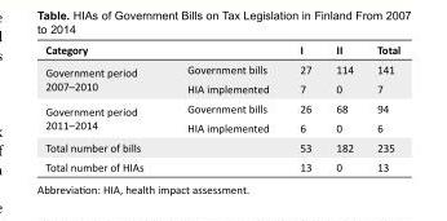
<table><tbody><tr><td>Category</td><td></td><td>I</td><td>II</td><td>Total</td></tr><tr><td rowspan="2">Government period 2007–2010</td><td>Government bills</td><td>27</td><td>114</td><td>141</td></tr><tr><td>HIA implemented</td><td>7</td><td>0</td><td>7</td></tr><tr><td rowspan="2">Government period 2011–2014</td><td>Government bills</td><td>26</td><td>68</td><td>94</td></tr><tr><td>HIA implemented</td><td>6</td><td>0</td><td>6</td></tr><tr><td>Total number of bills</td><td></td><td>53</td><td>182</td><td>235</td></tr><tr><td>Total number of HIAs</td><td></td><td>13</td><td>0</td><td>13</td></tr></tbody></table>